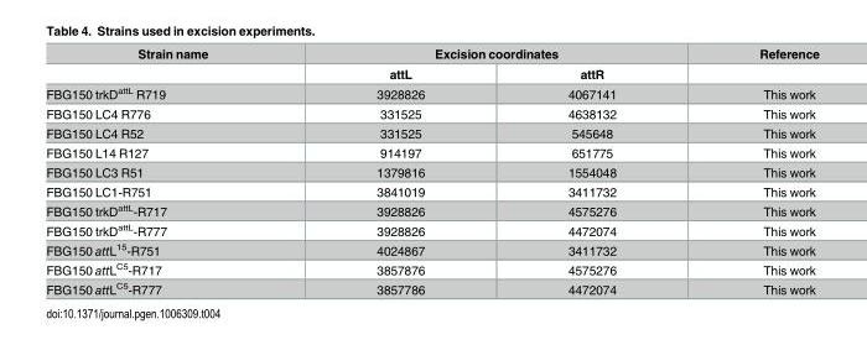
<table><thead><tr><td rowspan="2">Strain name</td><td colspan="2">Excision coordinates</td><td rowspan="2">Reference</td></tr><tr><td>attL</td><td>attR</td></tr></thead><tbody><tr><td>FBG150 trkD<sup>attL</sup> R719</td><td>3928826</td><td>4067141</td><td>This work</td></tr><tr><td>FBG150 LC4 R776</td><td>331525</td><td>4638132</td><td>This work</td></tr><tr><td>FBG150 LC4 R52</td><td>331525</td><td>545648</td><td>This work</td></tr><tr><td>FBG150 L14 R127</td><td>914197</td><td>651775</td><td>This work</td></tr><tr><td>FBG150 LC3 R51</td><td>1379816</td><td>1554048</td><td>This work</td></tr><tr><td>FBG150 LC1-R751</td><td>3841019</td><td>3411732</td><td>This work</td></tr><tr><td>FBG150 trkD<sup>attL</sup>-R717</td><td>3928826</td><td>4575276</td><td>This work</td></tr><tr><td>FBG150 trkD<sup>attL</sup>-R777</td><td>3928826</td><td>4472074</td><td>This work</td></tr><tr><td>FBG150 attL<sup>15</sup>-R751</td><td>4024867</td><td>3411732</td><td>This work</td></tr><tr><td>FBG150 attL<sup>C5</sup>-R717</td><td>3857876</td><td>4575276</td><td>This work</td></tr><tr><td>FBG150 attL<sup>C5</sup>-R777</td><td>3857786</td><td>4472074</td><td>This work</td></tr></tbody></table>